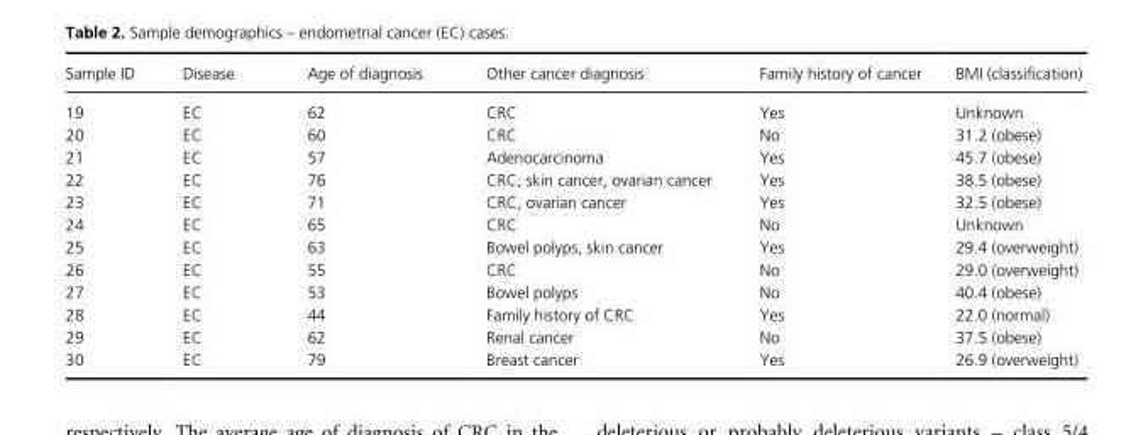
<table><thead><tr><td>Sample ID</td><td>Disease</td><td>Age of diagnosis</td><td>Other cancer diagnosis</td><td>Family history of cancer</td><td>BMI (classification)</td></tr></thead><tbody><tr><td>19</td><td>EC</td><td>62</td><td>CRC</td><td>Yes</td><td>Unknown</td></tr><tr><td>20</td><td>EC</td><td>60</td><td>CRC</td><td>No</td><td>31.2 (obese)</td></tr><tr><td>21</td><td>EC</td><td>57</td><td>Adenocarcinoma</td><td>Yes</td><td>45.7 (obese)</td></tr><tr><td>22</td><td>EC</td><td>76</td><td>CRC, skin cancer, ovarian cancer</td><td>Yes</td><td>38.5 (obese)</td></tr><tr><td>23</td><td>EC</td><td>71</td><td>CRC, ovarian cancer</td><td>Yes</td><td>32.5 (obese)</td></tr><tr><td>24</td><td>EC</td><td>65</td><td>CRC</td><td>No</td><td>Unknown</td></tr><tr><td>25</td><td>EC</td><td>63</td><td>Bowel polyps, skin cancer</td><td>Yes</td><td>29.4 (overweight)</td></tr><tr><td>26</td><td>EC</td><td>55</td><td>CRC</td><td>No</td><td>29.0 (overweight)</td></tr><tr><td>27</td><td>EC</td><td>53</td><td>Bowel polyps</td><td>No</td><td>40.4 (obese)</td></tr><tr><td>28</td><td>EC</td><td>44</td><td>Family history of CRC</td><td>Yes</td><td>22.0 (normal)</td></tr><tr><td>29</td><td>EC</td><td>62</td><td>Renal cancer</td><td>No</td><td>37.5 (obese)</td></tr><tr><td>30</td><td>EC</td><td>79</td><td>Breast cancer</td><td>Yes</td><td>26.9 (overweight)</td></tr></tbody></table>